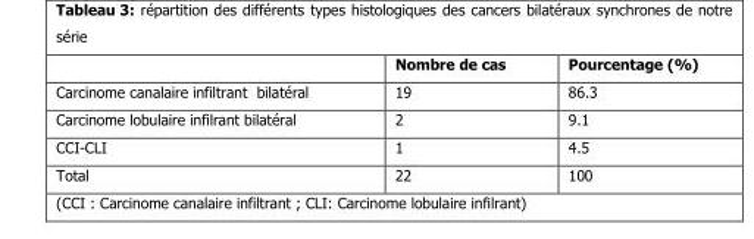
<table><thead><tr><td></td><td>Nombre de cas</td><td>Pourcentage (%)</td></tr></thead><tbody><tr><td>Carcinome canalaire infiltrant bilatéral</td><td>19</td><td>86.3</td></tr><tr><td>Carcinome lobulaire infilrant bilatéral</td><td>2</td><td>9.1</td></tr><tr><td>CCI-CLI</td><td>1</td><td>4.5</td></tr><tr><td>Total</td><td>22</td><td>100</td></tr></tbody></table>